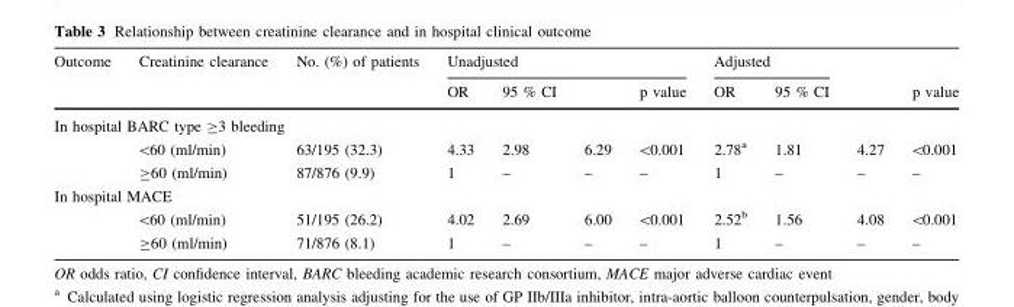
<table><thead><tr><td rowspan="2">Outcome</td><td rowspan="2">Creatinine clearance</td><td rowspan="2">No. (%) of patients</td><td colspan="4">Unadjusted</td><td colspan="2">Adjusted</td><td rowspan="2"></td><td rowspan="2">p value</td></tr><tr><td>OR</td><td>95 % CI</td><td></td><td>p value</td><td>OR</td><td>95 % CI</td></tr></thead><tbody><tr><td colspan="11">In hospital BARC type ≥3 bleeding</td></tr><tr><td></td><td>&lt;60 (ml/min)</td><td>63/195 (32.3)</td><td>4.33</td><td>2.98</td><td>6.29</td><td>&lt;0.001</td><td>2.78<sup>a</sup></td><td>1.81</td><td>4.27</td><td>&lt;0.001</td></tr><tr><td></td><td>≥60 (ml/min)</td><td>87/876 (9.9)</td><td>1</td><td>–</td><td>–</td><td>–</td><td>1</td><td>–</td><td>–</td><td>–</td></tr><tr><td colspan="11">In hospital MACE</td></tr><tr><td></td><td>&lt;60 (ml/min)</td><td>51/195 (26.2)</td><td>4.02</td><td>2.69</td><td>6.00</td><td>&lt;0.001</td><td>2.52<sup>b</sup></td><td>1.56</td><td>4.08</td><td>&lt;0.001</td></tr><tr><td></td><td>≥60 (ml/min)</td><td>71/876 (8.1)</td><td>1</td><td>–</td><td>–</td><td>–</td><td>1</td><td>–</td><td>–</td><td>–</td></tr></tbody></table>